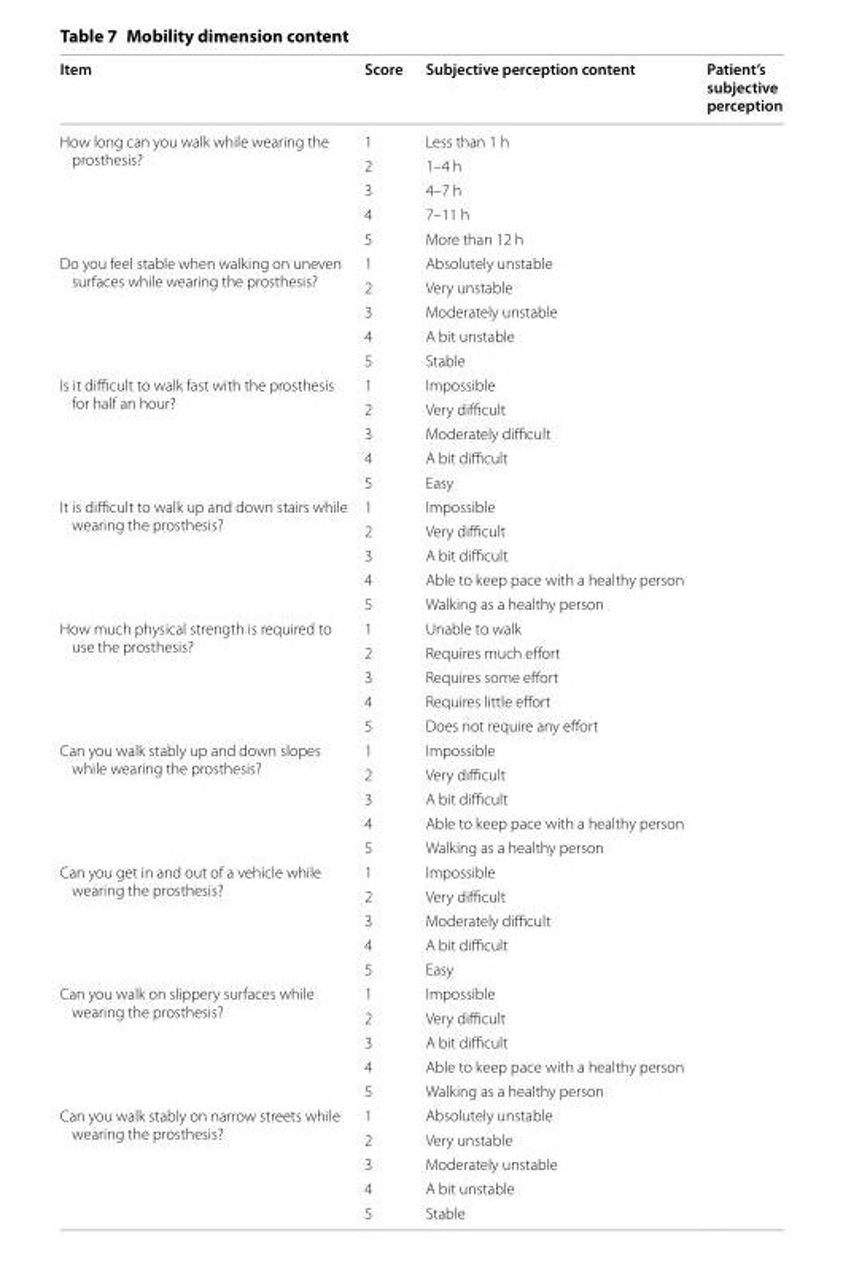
<table><thead><tr><td>Item</td><td>Score</td><td>Subjective perception content</td><td>Patient’s subjective perception</td></tr></thead><tbody><tr><td rowspan="5">How long can you walk while wearing the prosthesis?</td><td>1</td><td>Less than 1 h</td><td rowspan="5"></td></tr><tr><td>2</td><td>1–4 h</td></tr><tr><td>3</td><td>4–7 h</td></tr><tr><td>4</td><td>7–11 h</td></tr><tr><td>5</td><td>More than 12 h</td></tr><tr><td rowspan="5">Do you feel stable when walking on uneven surfaces while wearing the prosthesis?</td><td>1</td><td>Absolutely unstable</td><td rowspan="5"></td></tr><tr><td>2</td><td>Very unstable</td></tr><tr><td>3</td><td>Moderately unstable</td></tr><tr><td>4</td><td>A bit unstable</td></tr><tr><td>5</td><td>Stable</td></tr><tr><td rowspan="5">Is it difficult to walk fast with the prosthesis for half an hour?</td><td>1</td><td>Impossible</td><td rowspan="5"></td></tr><tr><td>2</td><td>Very difficult</td></tr><tr><td>3</td><td>Moderately difficult</td></tr><tr><td>4</td><td>A bit difficult</td></tr><tr><td>5</td><td>Easy</td></tr><tr><td rowspan="5">It is difficult to walk up and down stairs while wearing the prosthesis?</td><td>1</td><td>Impossible</td><td rowspan="5"></td></tr><tr><td>2</td><td>Very difficult</td></tr><tr><td>3</td><td>A bit difficult</td></tr><tr><td>4</td><td>Able to keep pace with a healthy person</td></tr><tr><td>5</td><td>Walking as a healthy person</td></tr><tr><td rowspan="5">How much physical strength is required to use the prosthesis?</td><td>1</td><td>Unable to walk</td><td rowspan="5"></td></tr><tr><td>2</td><td>Requires much effort</td></tr><tr><td>3</td><td>Requires some effort</td></tr><tr><td>4</td><td>Requires little effort</td></tr><tr><td>5</td><td>Does not require any effort</td></tr><tr><td rowspan="5">Can you walk stably up and down slopes while wearing the prosthesis?</td><td>1</td><td>Impossible</td><td rowspan="5"></td></tr><tr><td>2</td><td>Very difficult</td></tr><tr><td>3</td><td>A bit difficult</td></tr><tr><td>4</td><td>Able to keep pace with a healthy person</td></tr><tr><td>5</td><td>Walking as a healthy person</td></tr><tr><td rowspan="5">Can you get in and out of a vehicle while wearing the prosthesis?</td><td>1</td><td>Impossible</td><td rowspan="5"></td></tr><tr><td>2</td><td>Very difficult</td></tr><tr><td>3</td><td>Moderately difficult</td></tr><tr><td>4</td><td>A bit difficult</td></tr><tr><td>5</td><td>Easy</td></tr><tr><td rowspan="5">Can you walk on slippery surfaces while wearing the prosthesis?</td><td>1</td><td>Impossible</td><td rowspan="5"></td></tr><tr><td>2</td><td>Very difficult</td></tr><tr><td>3</td><td>A bit difficult</td></tr><tr><td>4</td><td>Able to keep pace with a healthy person</td></tr><tr><td>5</td><td>Walking as a healthy person</td></tr><tr><td rowspan="5">Can you walk stably on narrow streets while wearing the prosthesis?</td><td>1</td><td>Absolutely unstable</td><td rowspan="5"></td></tr><tr><td>2</td><td>Very unstable</td></tr><tr><td>3</td><td>Moderately unstable</td></tr><tr><td>4</td><td>A bit unstable</td></tr><tr><td>5</td><td>Stable</td></tr></tbody></table>